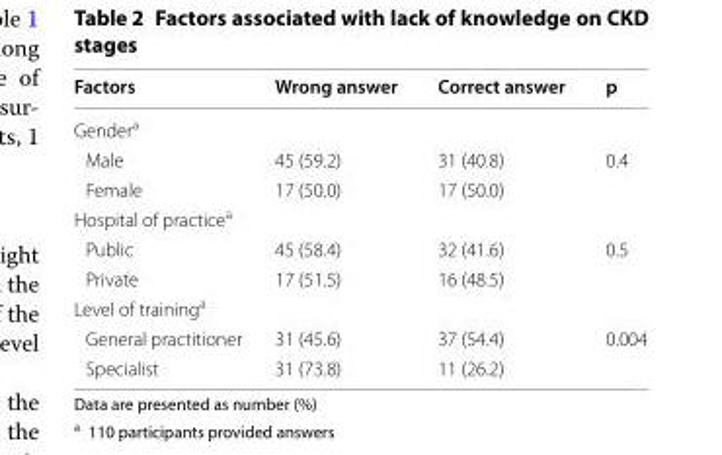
<table><thead><tr><td>Factors</td><td>Wrong answer</td><td>Correct answer</td><td>p</td></tr></thead><tbody><tr><td colspan="4">Gender<sup>a</sup></td></tr><tr><td>Male</td><td>45 (59.2)</td><td>31 (40.8)</td><td>0.4</td></tr><tr><td>Female</td><td>17 (50.0)</td><td>17 (50.0)</td><td></td></tr><tr><td colspan="4">Hospital of practice<sup>a</sup></td></tr><tr><td>Public</td><td>45 (58.4)</td><td>32 (41.6)</td><td>0.5</td></tr><tr><td>Private</td><td>17 (51.5)</td><td>16 (48.5)</td><td></td></tr><tr><td colspan="4">Level of training<sup>a</sup></td></tr><tr><td>General practitioner</td><td>31 (45.6)</td><td>37 (54.4)</td><td>0.004</td></tr><tr><td>Specialist</td><td>31 (73.8)</td><td>11 (26.2)</td><td></td></tr></tbody></table>